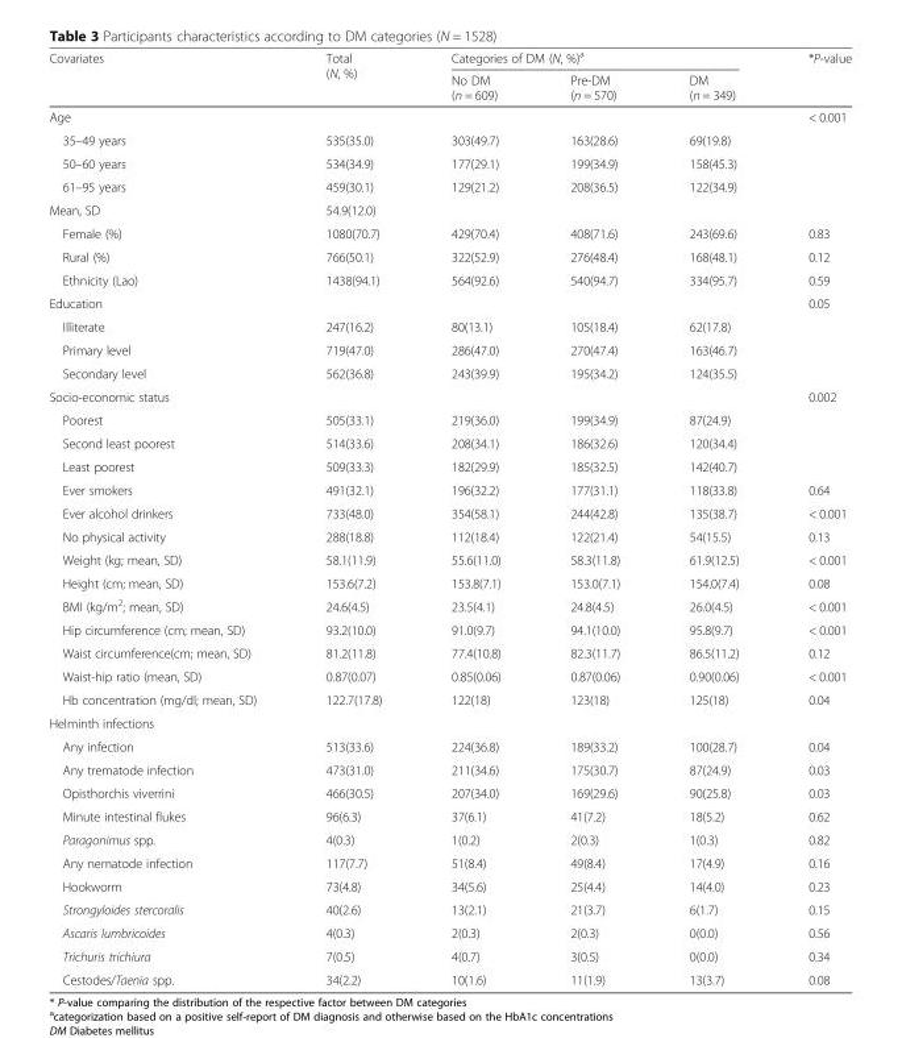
<table><thead><tr><td rowspan="2">Covariates</td><td rowspan="2">Total (N, %)</td><td colspan="3">Categories of DM (N, %)<sup>a</sup></td><td rowspan="2">*P-value</td></tr><tr><td>No DM (n = 609)</td><td>Pre-DM (n = 570)</td><td>DM (n = 349)</td></tr></thead><tbody><tr><td colspan="5">Age</td><td>&lt; 0.001</td></tr><tr><td>35–49 years</td><td>535(35.0)</td><td>303(49.7)</td><td>163(28.6)</td><td>69(19.8)</td><td></td></tr><tr><td>50–60 years</td><td>534(34.9)</td><td>177(29.1)</td><td>199(34.9)</td><td>158(45.3)</td><td></td></tr><tr><td>61–95 years</td><td>459(30.1)</td><td>129(21.2)</td><td>208(36.5)</td><td>122(34.9)</td><td></td></tr><tr><td>Mean, SD</td><td colspan="5">54.9(12.0)</td></tr><tr><td>Female (%)</td><td>1080(70.7)</td><td>429(70.4)</td><td>408(71.6)</td><td>243(69.6)</td><td>0.83</td></tr><tr><td>Rural (%)</td><td>766(50.1)</td><td>322(52.9)</td><td>276(48.4)</td><td>168(48.1)</td><td>0.12</td></tr><tr><td>Ethnicity (Lao)</td><td>1438(94.1)</td><td>564(92.6)</td><td>540(94.7)</td><td>334(95.7)</td><td>0.59</td></tr><tr><td colspan="5">Education</td><td>0.05</td></tr><tr><td>Illiterate</td><td>247(16.2)</td><td>80(13.1)</td><td>105(18.4)</td><td>62(17.8)</td><td></td></tr><tr><td>Primary level</td><td>719(47.0)</td><td>286(47.0)</td><td>270(47.4)</td><td>163(46.7)</td><td></td></tr><tr><td>Secondary level</td><td>562(36.8)</td><td>243(39.9)</td><td>195(34.2)</td><td>124(35.5)</td><td></td></tr><tr><td colspan="5">Socio-economic status</td><td>0.002</td></tr><tr><td>Poorest</td><td>505(33.1)</td><td>219(36.0)</td><td>199(34.9)</td><td>87(24.9)</td><td></td></tr><tr><td>Second least poorest</td><td>514(33.6)</td><td>208(34.1)</td><td>186(32.6)</td><td>120(34.4)</td><td></td></tr><tr><td>Least poorest</td><td>509(33.3)</td><td>182(29.9)</td><td>185(32.5)</td><td>142(40.7)</td><td></td></tr><tr><td>Ever smokers</td><td>491(32.1)</td><td>196(32.2)</td><td>177(31.1)</td><td>118(33.8)</td><td>0.64</td></tr><tr><td>Ever alcohol drinkers</td><td>733(48.0)</td><td>354(58.1)</td><td>244(42.8)</td><td>135(38.7)</td><td>&lt; 0.001</td></tr><tr><td>No physical activity</td><td>288(18.8)</td><td>112(18.4)</td><td>122(21.4)</td><td>54(15.5)</td><td>0.13</td></tr><tr><td>Weight (kg; mean, SD)</td><td>58.1(11.9)</td><td>55.6(11.0)</td><td>58.3(11.8)</td><td>61.9(12.5)</td><td>&lt; 0.001</td></tr><tr><td>Height (cm; mean, SD)</td><td>153.6(7.2)</td><td>153.8(7.1)</td><td>153.0(7.1)</td><td>154.0(7.4)</td><td>0.08</td></tr><tr><td>BMI (kg/m<sup>2</sup>; mean, SD)</td><td>24.6(4.5)</td><td>23.5(4.1)</td><td>24.8(4.5)</td><td>26.0(4.5)</td><td>&lt; 0.001</td></tr><tr><td>Hip circumference (cm; mean, SD)</td><td>93.2(10.0)</td><td>91.0(9.7)</td><td>94.1(10.0)</td><td>95.8(9.7)</td><td>&lt; 0.001</td></tr><tr><td>Waist circumference(cm; mean, SD)</td><td>81.2(11.8)</td><td>77.4(10.8)</td><td>82.3(11.7)</td><td>86.5(11.2)</td><td>0.12</td></tr><tr><td>Waist-hip ratio (mean, SD)</td><td>0.87(0.07)</td><td>0.85(0.06)</td><td>0.87(0.06)</td><td>0.90(0.06)</td><td>&lt; 0.001</td></tr><tr><td>Hb concentration (mg/dl; mean, SD)</td><td>122.7(17.8)</td><td>122(18)</td><td>123(18)</td><td>125(18)</td><td>0.04</td></tr><tr><td colspan="6">Helminth infections</td></tr><tr><td>Any infection</td><td>513(33.6)</td><td>224(36.8)</td><td>189(33.2)</td><td>100(28.7)</td><td>0.04</td></tr><tr><td>Any trematode infection</td><td>473(31.0)</td><td>211(34.6)</td><td>175(30.7)</td><td>87(24.9)</td><td>0.03</td></tr><tr><td>Opisthorchis viverrini</td><td>466(30.5)</td><td>207(34.0)</td><td>169(29.6)</td><td>90(25.8)</td><td>0.03</td></tr><tr><td>Minute intestinal flukes</td><td>96(6.3)</td><td>37(6.1)</td><td>41(7.2)</td><td>18(5.2)</td><td>0.62</td></tr><tr><td>Paragonimus spp.</td><td>4(0.3)</td><td>1(0.2)</td><td>2(0.3)</td><td>1(0.3)</td><td>0.82</td></tr><tr><td>Any nematode infection</td><td>117(7.7)</td><td>51(8.4)</td><td>49(8.4)</td><td>17(4.9)</td><td>0.16</td></tr><tr><td>Hookworm</td><td>73(4.8)</td><td>34(5.6)</td><td>25(4.4)</td><td>14(4.0)</td><td>0.23</td></tr><tr><td>Strongyloides stercoralis</td><td>40(2.6)</td><td>13(2.1)</td><td>21(3.7)</td><td>6(1.7)</td><td>0.15</td></tr><tr><td>Ascaris lumbricoides</td><td>4(0.3)</td><td>2(0.3)</td><td>2(0.3)</td><td>0(0.0)</td><td>0.56</td></tr><tr><td>Trichuris trichiura</td><td>7(0.5)</td><td>4(0.7)</td><td>3(0.5)</td><td>0(0.0)</td><td>0.34</td></tr><tr><td>Cestodes/Taenia spp.</td><td>34(2.2)</td><td>10(1.6)</td><td>11(1.9)</td><td>13(3.7)</td><td>0.08</td></tr></tbody></table>